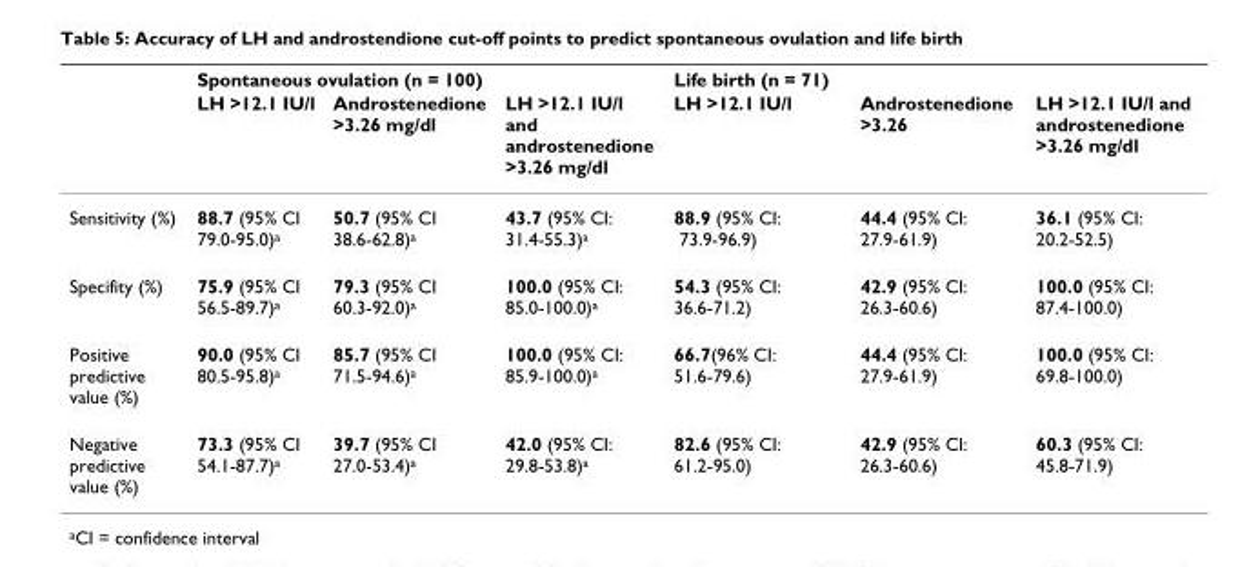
<table><thead><tr><td rowspan="2"></td><td colspan="3">Spontaneous ovulation (n = 100)</td><td colspan="3">Life birth (n = 71)</td></tr><tr><td>LH &gt;12.1 IU/l</td><td>Androstenedione &gt;3.26 mg/dl</td><td>LH &gt;12.1 IU/l and androstenedione &gt;3.26 mg/dl</td><td>LH &gt;12.1 IU/l</td><td>Androstenedione &gt;3.26</td><td>LH &gt;12.1 IU/l and androstenedione &gt;3.26 mg/dl</td></tr></thead><tbody><tr><td>Sensitivity (%)</td><td>88.7 (95% CI 79.0-95.0)<sup>a</sup></td><td>50.7 (95% CI 38.6-62.8)<sup>a</sup></td><td>43.7 (95% CI: 31.4-55.3)<sup>a</sup></td><td>88.9 (95% CI: 73.9-96.9)</td><td>44.4 (95% CI: 27.9-61.9)</td><td>36.1 (95% CI: 20.2-52.5)</td></tr><tr><td>Specifity (%)</td><td>75.9 (95% CI 56.5-89.7)<sup>a</sup></td><td>79.3 (95% CI 60.3-92.0)<sup>a</sup></td><td>100.0 (95% CI: 85.0-100.0)<sup>a</sup></td><td>54.3 (95% CI: 36.6-71.2)</td><td>42.9 (95% CI: 26.3-60.6)</td><td>100.0 (95% CI: 87.4-100.0)</td></tr><tr><td>Positive predictive value (%)</td><td>90.0 (95% CI 80.5-95.8)<sup>a</sup></td><td>85.7 (95% CI 71.5-94.6)<sup>a</sup></td><td>100.0 (95% CI: 85.9-100.0)<sup>a</sup></td><td>66.7(96% CI: 51.6-79.6)</td><td>44.4 (95% CI: 27.9-61.9)</td><td>100.0 (95% CI: 69.8-100.0)</td></tr><tr><td>Negative predictive value (%)</td><td>73.3 (95% CI 54.1-87.7)<sup>a</sup></td><td>39.7 (95% CI 27.0-53.4)<sup>a</sup></td><td>42.0 (95% CI: 29.8-53.8)<sup>a</sup></td><td>82.6 (95% CI: 61.2-95.0)</td><td>42.9 (95% CI: 26.3-60.6)</td><td>60.3 (95% CI: 45.8-71.9)</td></tr></tbody></table>